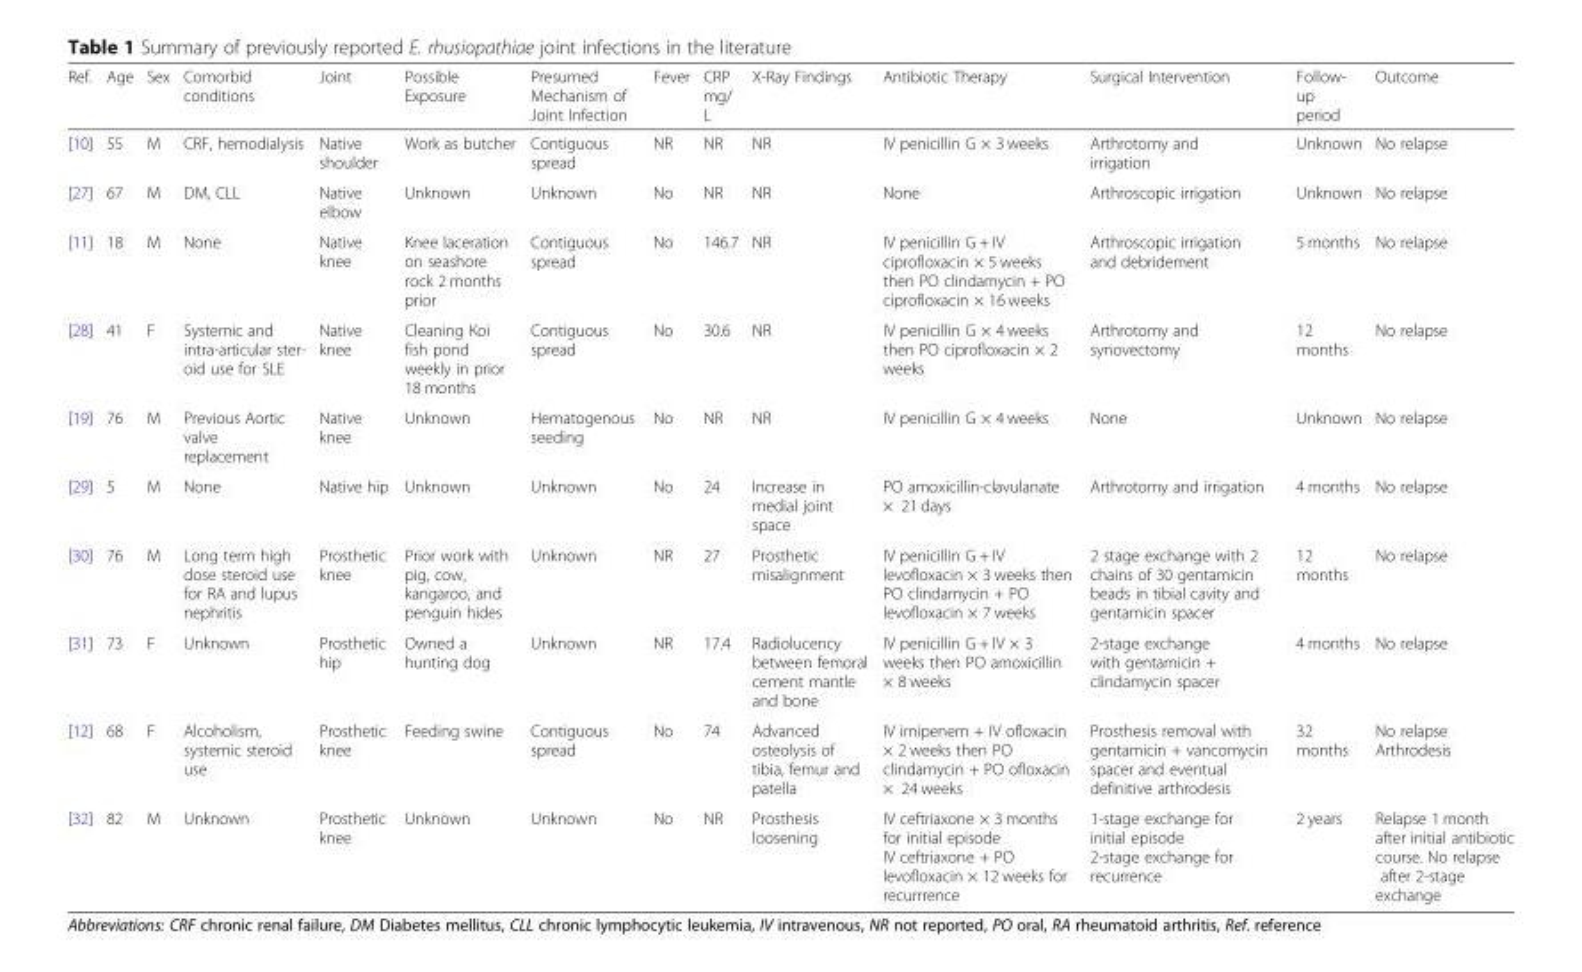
<table><thead><tr><td>Ref.</td><td>Age</td><td>Sex</td><td>Comorbid conditions</td><td>Joint</td><td>Possible Exposure</td><td>Presumed Mechanism of Joint Infection</td><td>Fever</td><td>CRP mg/ L</td><td>X-Ray Findings</td><td>Antibiotic Therapy</td><td>Surgical Intervention</td><td>Follow- up period</td><td>Outcome</td></tr></thead><tbody><tr><td>[10]</td><td>55</td><td>M</td><td>CRF, hemodialysis</td><td>Native shoulder</td><td>Work as butcher</td><td>Contiguous spread</td><td>NR</td><td>NR</td><td>NR</td><td>IV penicillin G × 3 weeks</td><td>Arthrotomy and irrigation</td><td>Unknown</td><td>No relapse</td></tr><tr><td>[27]</td><td>67</td><td>M</td><td>DM, CLL</td><td>Native elbow</td><td>Unknown</td><td>Unknown</td><td>No</td><td>NR</td><td>NR</td><td>None</td><td>Arthroscopic irrigation</td><td>Unknown</td><td>No relapse</td></tr><tr><td>[11]</td><td>18</td><td>M</td><td>None</td><td>Native knee</td><td>Knee laceration on seashore rock 2 months prior</td><td>Contiguous spread</td><td>No</td><td>146.7</td><td>NR</td><td>IV penicillin G + IV ciprofloxacin × 5 weeks then PO clindamycin + PO ciprofloxacin × 16 weeks</td><td>Arthroscopic irrigation and debridement</td><td>5 months</td><td>No relapse</td></tr><tr><td>[28]</td><td>41</td><td>F</td><td>Systemic and intra-articular ster- oid use for SLE</td><td>Native knee</td><td>Cleaning Koi fish pond weekly in prior 18 months</td><td>Contiguous spread</td><td>No</td><td>30.6</td><td>NR</td><td>IV penicillin G × 4 weeks then PO ciprofloxacin × 2 weeks</td><td>Arthrotomy and synovectomy</td><td>12 months</td><td>No relapse</td></tr><tr><td>[19]</td><td>76</td><td>M</td><td>Previous Aortic valve replacement</td><td>Native knee</td><td>Unknown</td><td>Hematogenous seeding</td><td>No</td><td>NR</td><td>NR</td><td>IV penicillin G × 4 weeks</td><td>None</td><td>Unknown</td><td>No relapse</td></tr><tr><td>[29]</td><td>5</td><td>M</td><td>None</td><td>Native hip</td><td>Unknown</td><td>Unknown</td><td>No</td><td>24</td><td>Increase in medial joint space</td><td>PO amoxicillin-clavulanate × 21 days</td><td>Arthrotomy and irrigation</td><td>4 months</td><td>No relapse</td></tr><tr><td>[30]</td><td>76</td><td>M</td><td>Long term high dose steroid use for RA and lupus nephritis</td><td>Prosthetic knee</td><td>Prior work with pig, cow, kangaroo, and penguin hides</td><td>Unknown</td><td>NR</td><td>27</td><td>Prosthetic misalignment</td><td>IV penicillin G + IV levofloxacin × 3 weeks then PO clindamycin + PO levofloxacin × 7 weeks</td><td>2 stage exchange with 2 chains of 30 gentamicin beads in tibial cavity and gentamicin spacer</td><td>12 months</td><td>No relapse</td></tr><tr><td>[31]</td><td>73</td><td>F</td><td>Unknown</td><td>Prosthetic hip</td><td>Owned a hunting dog</td><td>Unknown</td><td>NR</td><td>17.4</td><td>Radiolucency between femoral cement mantle and bone</td><td>IV penicillin G + IV × 3 weeks then PO amoxicillin × 8 weeks</td><td>2-stage exchange with gentamicin + clindamycin spacer</td><td>4 months</td><td>No relapse</td></tr><tr><td>[12]</td><td>68</td><td>F</td><td>Alcoholism, systemic steroid use</td><td>Prosthetic knee</td><td>Feeding swine</td><td>Contiguous spread</td><td>No</td><td>74</td><td>Advanced osteolysis of tibia, femur and patella</td><td>IV imipenem + IV ofloxacin × 2 weeks then PO clindamycin + PO ofloxacin × 24 weeks</td><td>Prosthesis removal with gentamicin + vancomycin spacer and eventual definitive arthrodesis</td><td>32 months</td><td>No relapse Arthrodesis</td></tr><tr><td>[32]</td><td>82</td><td>M</td><td>Unknown</td><td>Prosthetic knee</td><td>Unknown</td><td>Unknown</td><td>No</td><td>NR</td><td>Prosthesis loosening</td><td>IV ceftriaxone × 3 months for initial episode IV ceftriaxone + PO levofloxacin × 12 weeks for recurrrence</td><td>1-stage exchange for initial episode 2-stage exchange for recurrence</td><td>2 years</td><td>Relapse 1 month after initial antibiotic course. No relapse after 2-stage exchange</td></tr></tbody></table>